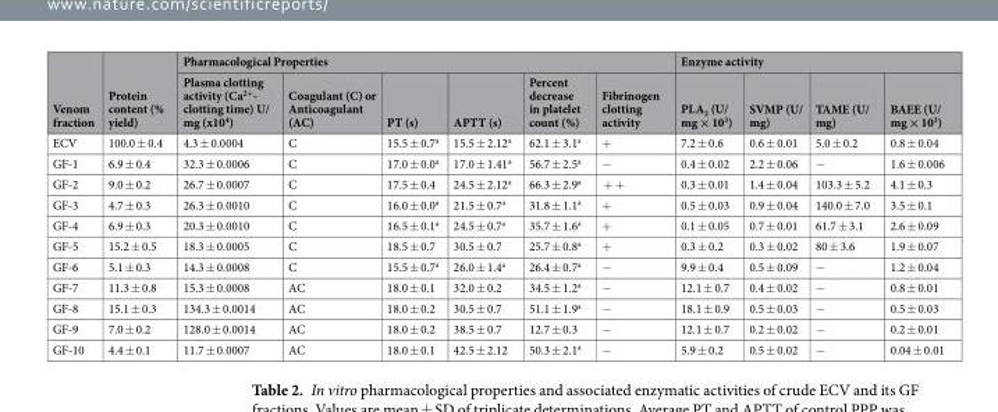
<table><thead><tr><td rowspan="2">Venom fraction</td><td rowspan="2">Protein content (% yield)</td><td colspan="6">Pharmacological Properties</td><td colspan="4">Enzyme activity</td></tr><tr><td>Plasma clotting activity (Ca<sup>2+</sup>- clotting time) U/ mg (x10<sup>4</sup>)</td><td>Coagulant (C) or Anticoagulant (AC)</td><td>PT (s)</td><td>APTT (s)</td><td>Percent decrease in platelet count (%)</td><td>Fibrinogen clotting activity</td><td>PLA<sub>2</sub> (U/ mg × 10<sup>3</sup>)</td><td>SVMP (U/ mg)</td><td>TAME (U/ mg)</td><td>BAEE (U/ mg × 10<sup>3</sup>)</td></tr></thead><tbody><tr><td>ECV</td><td>100.0 ± 0.4</td><td>4.3 ± 0.0004</td><td>C</td><td>15.5 ± 0.7<sup>a</sup></td><td>15.5 ± 2.12<sup>a</sup></td><td>62.1 ± 3.1<sup>a</sup></td><td>+</td><td>7.2 ± 0.6</td><td>0.6 ± 0.01</td><td>5.0 ± 0.2</td><td>0.8 ± 0.04</td></tr><tr><td>GF-1</td><td>6.9 ± 0.4</td><td>32.3 ± 0.0006</td><td>C</td><td>17.0 ± 0.0<sup>a</sup></td><td>17.0 ± 1.41<sup>a</sup></td><td>56.7 ± 2.5<sup>a</sup></td><td>−</td><td>0.4 ± 0.02</td><td>2.2 ± 0.06</td><td>−</td><td>1.6 ± 0.006</td></tr><tr><td>GF-2</td><td>9.0 ± 0.2</td><td>26.7 ± 0.0007</td><td>C</td><td>17.5 ± 0.4</td><td>24.5 ± 2.12<sup>a</sup></td><td>66.3 ± 2.9<sup>a</sup></td><td>+ +</td><td>0.3 ± 0.01</td><td>1.4 ± 0.04</td><td>103.3 ± 5.2</td><td>4.1 ± 0.3</td></tr><tr><td>GF-3</td><td>4.7 ± 0.3</td><td>26.3 ± 0.0010</td><td>C</td><td>16.0 ± 0.0<sup>a</sup></td><td>21.5 ± 0.7<sup>a</sup></td><td>31.8 ± 1.1<sup>a</sup></td><td>+</td><td>0.5 ± 0.03</td><td>0.9 ± 0.04</td><td>140.0 ± 7.0</td><td>3.5 ± 0.1</td></tr><tr><td>GF-4</td><td>6.9 ± 0.3</td><td>20.3 ± 0.0010</td><td>C</td><td>16.5 ± 0.1<sup>a</sup></td><td>24.5 ± 0.7<sup>a</sup></td><td>35.7 ± 1.6<sup>a</sup></td><td>+</td><td>0.1 ± 0.05</td><td>0.7 ± 0.01</td><td>61.7 ± 3.1</td><td>2.6 ± 0.09</td></tr><tr><td>GF-5</td><td>15.2 ± 0.5</td><td>18.3 ± 0.0005</td><td>C</td><td>18.5 ± 0.7</td><td>30.5 ± 0.7</td><td>25.7 ± 0.8<sup>a</sup></td><td>+</td><td>0.3 ± 0.2</td><td>0.3 ± 0.02</td><td>80 ± 3.6</td><td>1.9 ± 0.07</td></tr><tr><td>GF-6</td><td>5.1 ± 0.3</td><td>14.3 ± 0.0008</td><td>C</td><td>15.5 ± 0.7<sup>a</sup></td><td>26.0 ± 1.4<sup>a</sup></td><td>26.4 ± 0.7<sup>a</sup></td><td>−</td><td>9.9 ± 0.4</td><td>0.5 ± 0.09</td><td>−</td><td>1.2 ± 0.04</td></tr><tr><td>GF-7</td><td>11.3 ± 0.8</td><td>15.3 ± 0.0008</td><td>AC</td><td>18.0 ± 0.1</td><td>32.0 ± 0.2</td><td>34.5 ± 1.2<sup>a</sup></td><td>−</td><td>12.1 ± 0.7</td><td>0.4 ± 0.02</td><td>−</td><td>0.8 ± 0.01</td></tr><tr><td>GF-8</td><td>15.1 ± 0.3</td><td>134.3 ± 0.0014</td><td>AC</td><td>18.0 ± 0.2</td><td>30.5 ± 0.7</td><td>51.1 ± 1.9<sup>a</sup></td><td>−</td><td>18.1 ± 0.9</td><td>0.5 ± 0.03</td><td>−</td><td>0.5 ± 0.03</td></tr><tr><td>GF-9</td><td>7.0 ± 0.2</td><td>128.0 ± 0.0014</td><td>AC</td><td>18.0 ± 0.2</td><td>38.5 ± 0.7</td><td>12.7 ± 0.3</td><td>−</td><td>12.1 ± 0.7</td><td>0.2 ± 0.02</td><td>−</td><td>0.2 ± 0.01</td></tr><tr><td>GF-10</td><td>4.4 ± 0.1</td><td>11.7 ± 0.0007</td><td>AC</td><td>18.0 ± 0.1</td><td>42.5 ± 2.12</td><td>50.3 ± 2.1<sup>a</sup></td><td>−</td><td>5.9 ± 0.2</td><td>0.5 ± 0.02</td><td>−</td><td>0.04 ± 0.01</td></tr></tbody></table>